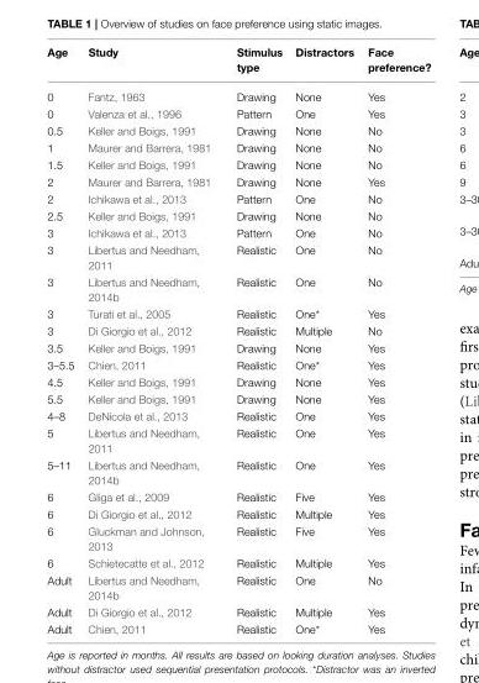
<table><thead><tr><td>Age</td><td>Study</td><td>Stimulus type</td><td>Distractors</td><td>Face preference?</td></tr></thead><tbody><tr><td>0</td><td>Fantz, 1963</td><td>Drawing</td><td>None</td><td>Yes</td></tr><tr><td>0</td><td>Valenza et al., 1996</td><td>Pattern</td><td>One</td><td>Yes</td></tr><tr><td>0.5</td><td>Keller and Boigs, 1991</td><td>Drawing</td><td>None</td><td>No</td></tr><tr><td>1</td><td>Maurer and Barrera, 1981</td><td>Drawing</td><td>None</td><td>No</td></tr><tr><td>1.5</td><td>Keller and Boigs, 1991</td><td>Drawing</td><td>None</td><td>No</td></tr><tr><td>2</td><td>Maurer and Barrera, 1981</td><td>Drawing</td><td>None</td><td>Yes</td></tr><tr><td>2</td><td>Ichikawa et al., 2013</td><td>Pattern</td><td>One</td><td>No</td></tr><tr><td>2.5</td><td>Keller and Boigs, 1991</td><td>Drawing</td><td>None</td><td>No</td></tr><tr><td>3</td><td>Ichikawa et al., 2013</td><td>Pattern</td><td>One</td><td>No</td></tr><tr><td>3</td><td>Libertus and Needham, 2011</td><td>Realistic</td><td>One</td><td>No</td></tr><tr><td>3</td><td>Libertus and Needham, 2014b</td><td>Realistic</td><td>One</td><td>No</td></tr><tr><td>3</td><td>Turati et al., 2005</td><td>Realistic</td><td>One*</td><td>Yes</td></tr><tr><td>3</td><td>Di Giorgio et al., 2012</td><td>Realistic</td><td>Multiple</td><td>No</td></tr><tr><td>3.5</td><td>Keller and Boigs, 1991</td><td>Drawing</td><td>None</td><td>Yes</td></tr><tr><td>3–5.5</td><td>Chien, 2011</td><td>Realistic</td><td>One*</td><td>Yes</td></tr><tr><td>4.5</td><td>Keller and Boigs, 1991</td><td>Drawing</td><td>None</td><td>Yes</td></tr><tr><td>5.5</td><td>Keller and Boigs, 1991</td><td>Drawing</td><td>None</td><td>Yes</td></tr><tr><td>4–8</td><td>DeNicola et al., 2013</td><td>Realistic</td><td>One</td><td>Yes</td></tr><tr><td>5</td><td>Libertus and Needham, 2011</td><td>Realistic</td><td>One</td><td>Yes</td></tr><tr><td>5–11</td><td>Libertus and Needham, 2014b</td><td>Realistic</td><td>One</td><td>Yes</td></tr><tr><td>6</td><td>Gliga et al., 2009</td><td>Realistic</td><td>Five</td><td>Yes</td></tr><tr><td>6</td><td>Di Giorgio et al., 2012</td><td>Realistic</td><td>Multiple</td><td>Yes</td></tr><tr><td>6</td><td>Gluckman and Johnson, 2013</td><td>Realistic</td><td>Five</td><td>Yes</td></tr><tr><td>6</td><td>Schietecatte et al., 2012</td><td>Realistic</td><td>Multiple</td><td>Yes</td></tr><tr><td>Adult</td><td>Libertus and Needham, 2014b</td><td>Realistic</td><td>One</td><td>No</td></tr><tr><td>Adult</td><td>Di Giorgio et al., 2012</td><td>Realistic</td><td>Multiple</td><td>Yes</td></tr><tr><td>Adult</td><td>Chien, 2011</td><td>Realistic</td><td>One*</td><td>Yes</td></tr></tbody></table>